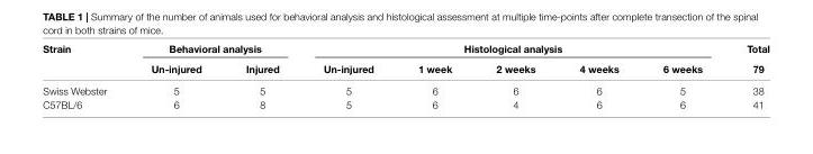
<table><thead><tr><td rowspan="2">Strain</td><td colspan="2">Behavioral analysis</td><td colspan="5">Histological analysis</td><td rowspan="2">Total 79</td></tr><tr><td>Un-injured</td><td>Injured</td><td>Un-injured</td><td>1 week</td><td>2 weeks</td><td>4 weeks</td><td>6 weeks</td></tr></thead><tbody><tr><td>Swiss Webster</td><td>5</td><td>5</td><td>5</td><td>6</td><td>6</td><td>6</td><td>5</td><td>38</td></tr><tr><td>C57BL/6</td><td>6</td><td>8</td><td>5</td><td>6</td><td>4</td><td>6</td><td>6</td><td>41</td></tr></tbody></table>